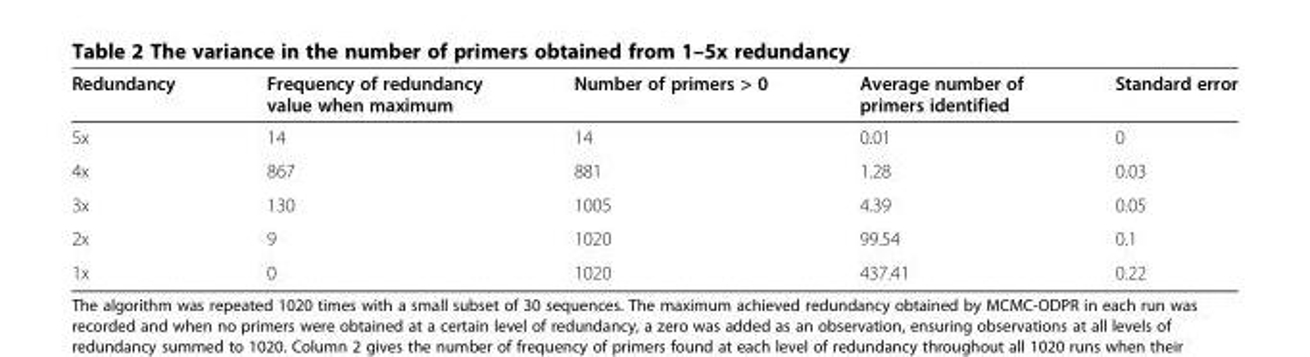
<table><thead><tr><td>Redundancy</td><td>Frequency of redundancy value when maximum</td><td>Number of primers &gt; 0</td><td>Average number of primers identified</td><td>Standard error</td></tr></thead><tbody><tr><td>5x</td><td>14</td><td>14</td><td>0.01</td><td>0</td></tr><tr><td>4x</td><td>867</td><td>881</td><td>1.28</td><td>0.03</td></tr><tr><td>3x</td><td>130</td><td>1005</td><td>4.39</td><td>0.05</td></tr><tr><td>2x</td><td>9</td><td>1020</td><td>99.54</td><td>0.1</td></tr><tr><td>1x</td><td>0</td><td>1020</td><td>437.41</td><td>0.22</td></tr></tbody></table>